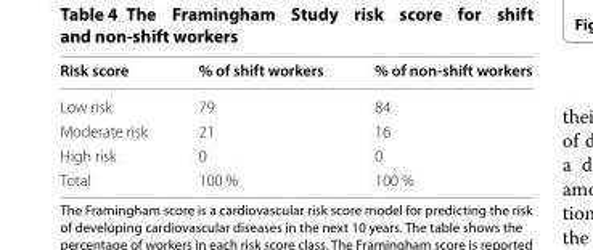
<table><thead><tr><td>Risk score</td><td>% of shift workers</td><td>% of non-shift workers</td></tr></thead><tbody><tr><td>Low risk</td><td>79</td><td>84</td></tr><tr><td>Moderate risk</td><td>21</td><td>16</td></tr><tr><td>High risk</td><td>0</td><td>0</td></tr><tr><td>Total</td><td>100 %</td><td>100 %</td></tr></tbody></table>